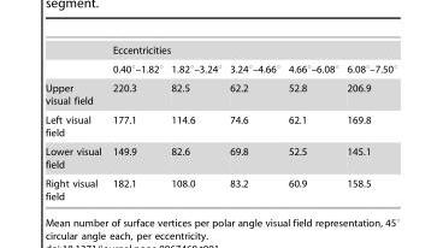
<table><thead><tr><td rowspan="2"></td><td colspan="5">Eccentricities</td></tr><tr><td>0.40°–1.82°</td><td>1.82°–3.24°</td><td>3.24°–4.66°</td><td>4.66°–6.08°</td><td>6.08°–7.50°</td></tr></thead><tbody><tr><td>Upper visual field</td><td>220.3</td><td>82.5</td><td>62.2</td><td>52.8</td><td>206.9</td></tr><tr><td>Left visual field</td><td>177.1</td><td>114.6</td><td>74.6</td><td>62.1</td><td>169.8</td></tr><tr><td>Lower visual field</td><td>149.9</td><td>82.6</td><td>69.8</td><td>52.5</td><td>145.1</td></tr><tr><td>Right visual field</td><td>182.1</td><td>108.0</td><td>83.2</td><td>60.9</td><td>158.5</td></tr></tbody></table>